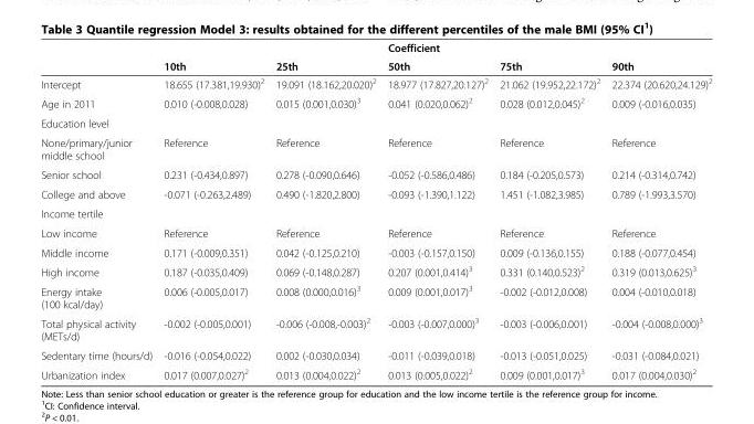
<table><thead><tr><td rowspan="2"></td><td rowspan="2">10th</td><td rowspan="2">25th</td><td rowspan="2">Coefficient 50th</td><td rowspan="2">75th</td><td rowspan="2">90th</td></tr><tr></tr></thead><tbody><tr><td>Intercept</td><td>18.655 (17.381,19.930)<sup>2</sup></td><td>19.091 (18.162,20.020)<sup>2</sup></td><td>18.977 (17.827,20.127)<sup>2</sup></td><td>21.062 (19.952,22.172)<sup>2</sup></td><td>22.374 (20.620,24.129)<sup>2</sup></td></tr><tr><td>Age in 2011</td><td>0.010 (-0.008,0.028)</td><td>0.015 (0.001,0.030)<sup>3</sup></td><td>0.041 (0.020,0.062)<sup>2</sup></td><td>0.028 (0.012,0.045)<sup>2</sup></td><td>0.009 (-0.016,0.035)</td></tr><tr><td colspan="6">Education level</td></tr><tr><td>None/primary/junior middle school</td><td>Reference</td><td>Reference</td><td>Reference</td><td>Reference</td><td>Reference</td></tr><tr><td>Senior school</td><td>0.231 (-0.434,0.897)</td><td>0.278 (-0.090,0.646)</td><td>-0.052 (-0.586,0.486)</td><td>0.184 (-0.205,0.573)</td><td>0.214 (-0.314,0.742)</td></tr><tr><td>College and above</td><td>-0.071 (-0.263,2.489)</td><td>0.490 (-1.820,2.800)</td><td>-0.093 (-1.390,1.122)</td><td>1.451 (-1.082,3.985)</td><td>0.789 (-1.993,3.570)</td></tr><tr><td colspan="6">Income tertile</td></tr><tr><td>Low income</td><td>Reference</td><td>Reference</td><td>Reference</td><td>Reference</td><td>Reference</td></tr><tr><td>Middle income</td><td>0.171 (-0.009,0.351)</td><td>0.042 (-0.125,0.210)</td><td>-0.003 (-0.157,0.150)</td><td>0.009 (-0.136,0.155)</td><td>0.188 (-0.077,0.454)</td></tr><tr><td>High income</td><td>0.187 (-0.035,0.409)</td><td>0.069 (-0.148,0.287)</td><td>0.207 (0.001,0.414)<sup>3</sup></td><td>0.331 (0.140,0.523)<sup>2</sup></td><td>0.319 (0.013,0.625)<sup>3</sup></td></tr><tr><td>Energy intake (100 kcal/day)</td><td>0.006 (-0.005,0.017)</td><td>0.008 (0.000,0.016)<sup>3</sup></td><td>0.009 (0.001,0.017)<sup>3</sup></td><td>-0.002 (-0.012,0.008)</td><td>0.004 (-0.010,0.018)</td></tr><tr><td>Total physical activity (METs/d)</td><td>-0.002 (-0.005,0.001)</td><td>-0.006 (-0.008,-0.003)<sup>2</sup></td><td>-0.003 (-0.007,0.000)<sup>3</sup></td><td>-0.003 (-0.006,0.001)</td><td>-0.004 (-0.008,0.000)<sup>3</sup></td></tr><tr><td>Sedentary time (hours/d)</td><td>-0.016 (-0.054,0.022)</td><td>0.002 (-0.030,0.034)</td><td>-0.011 (-0.039,0.018)</td><td>-0.013 (-0.051,0.025)</td><td>-0.031 (-0.084,0.021)</td></tr><tr><td>Urbanization index</td><td>0.017 (0.007,0.027)<sup>2</sup></td><td>0.013 (0.004,0.022)<sup>2</sup></td><td>0.013 (0.005,0.022)<sup>2</sup></td><td>0.009 (0.001,0.017)<sup>3</sup></td><td>0.017 (0.004,0.030)<sup>2</sup></td></tr></tbody></table>